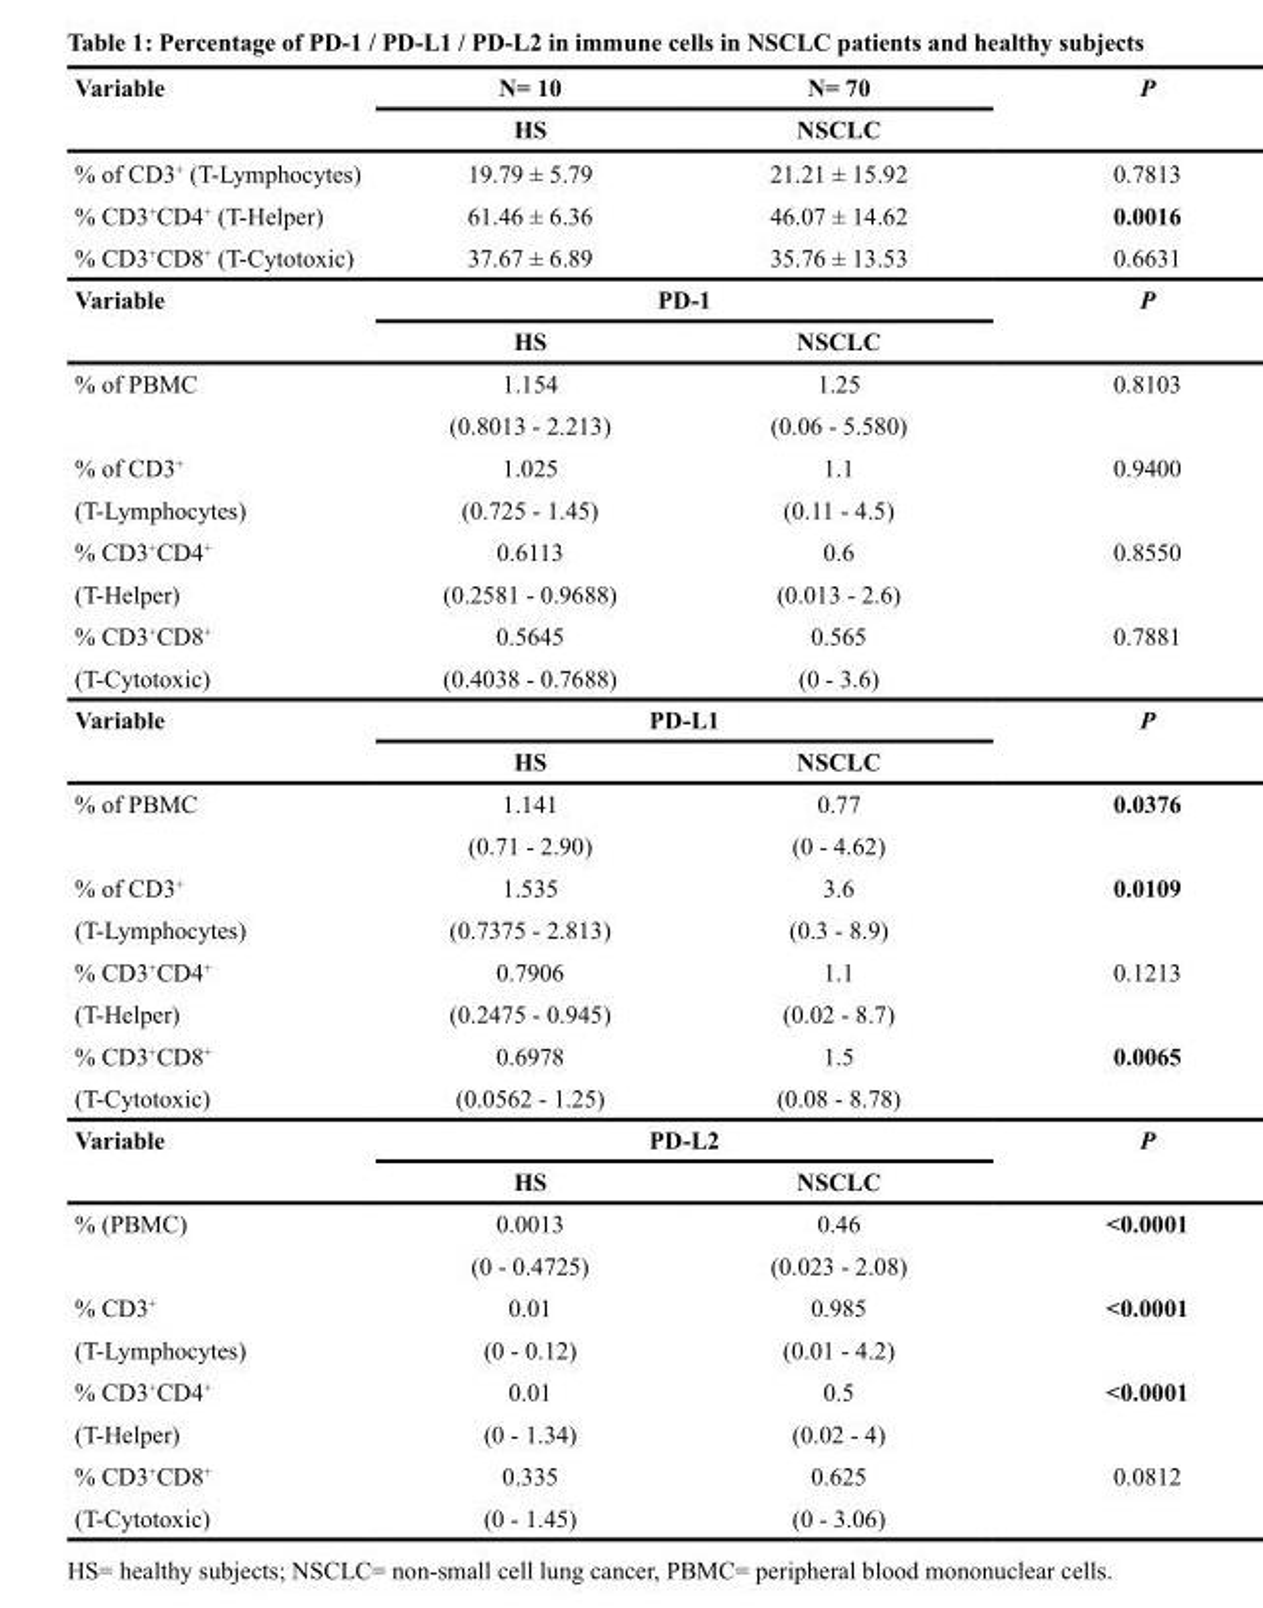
<table><tbody><tr><td rowspan="2">Variable</td><td>N= 10</td><td>N= 70</td><td rowspan="2">P</td></tr><tr><td>HS</td><td>NSCLC</td></tr><tr><td>% of CD3<sup>+</sup> (T-Lymphocytes)</td><td>19.79 ± 5.79</td><td>21.21 ± 15.92</td><td>0.7813</td></tr><tr><td>% CD3<sup>+</sup>CD4<sup>+</sup> (T-Helper)</td><td>61.46 ± 6.36</td><td>46.07 ± 14.62</td><td>0.0016</td></tr><tr><td>% CD3<sup>+</sup>CD8<sup>+</sup> (T-Cytotoxic)</td><td>37.67 ± 6.89</td><td>35.76 ± 13.53</td><td>0.6631</td></tr><tr><td rowspan="2">Variable</td><td colspan="2">PD-1</td><td rowspan="2">P</td></tr><tr><td>HS</td><td>NSCLC</td></tr><tr><td rowspan="2">% of PBMC</td><td>1.154</td><td>1.25</td><td>0.8103</td></tr><tr><td>(0.8013 - 2.213)</td><td>(0.06 - 5.580)</td><td></td></tr><tr><td>% of CD3<sup>+</sup></td><td>1.025</td><td>1.1</td><td>0.9400</td></tr><tr><td>(T-Lymphocytes)</td><td>(0.725 - 1.45)</td><td>(0.11 - 4.5)</td><td></td></tr><tr><td>% CD3<sup>+</sup>CD4<sup>+</sup></td><td>0.6113</td><td>0.6</td><td>0.8550</td></tr><tr><td>(T-Helper)</td><td>(0.2581 - 0.9688)</td><td>(0.013 - 2.6)</td><td></td></tr><tr><td>% CD3<sup>+</sup>CD8<sup>+</sup></td><td>0.5645</td><td>0.565</td><td>0.7881</td></tr><tr><td>(T-Cytotoxic)</td><td>(0.4038 - 0.7688)</td><td>(0 - 3.6)</td><td></td></tr><tr><td rowspan="2">Variable</td><td colspan="2">PD-L1</td><td rowspan="2">P</td></tr><tr><td>HS</td><td>NSCLC</td></tr><tr><td rowspan="2">% of PBMC</td><td>1.141</td><td>0.77</td><td>0.0376</td></tr><tr><td>(0.71 - 2.90)</td><td>(0 - 4.62)</td><td></td></tr><tr><td>% of CD3<sup>+</sup></td><td>1.535</td><td>3.6</td><td>0.0109</td></tr><tr><td>(T-Lymphocytes)</td><td>(0.7375 - 2.813)</td><td>(0.3 - 8.9)</td><td></td></tr><tr><td>% CD3<sup>+</sup>CD4<sup>+</sup></td><td>0.7906</td><td>1.1</td><td>0.1213</td></tr><tr><td>(T-Helper)</td><td>(0.2475 - 0.945)</td><td>(0.02 - 8.7)</td><td></td></tr><tr><td>% CD3<sup>+</sup>CD8<sup>+</sup></td><td>0.6978</td><td>1.5</td><td>0.0065</td></tr><tr><td>(T-Cytotoxic)</td><td>(0.0562 - 1.25)</td><td>(0.08 - 8.78)</td><td></td></tr><tr><td rowspan="2">Variable</td><td colspan="2">PD-L2</td><td rowspan="2">P</td></tr><tr><td>HS</td><td>NSCLC</td></tr><tr><td rowspan="2">% (PBMC)</td><td>0.0013</td><td>0.46</td><td>&lt;0.0001</td></tr><tr><td>(0 - 0.4725)</td><td>(0.023 - 2.08)</td><td></td></tr><tr><td>% CD3<sup>+</sup></td><td>0.01</td><td>0.985</td><td>&lt;0.0001</td></tr><tr><td>(T-Lymphocytes)</td><td>(0 - 0.12)</td><td>(0.01 - 4.2)</td><td></td></tr><tr><td>% CD3<sup>+</sup>CD4<sup>+</sup></td><td>0.01</td><td>0.5</td><td>&lt;0.0001</td></tr><tr><td>(T-Helper)</td><td>(0 - 1.34)</td><td>(0.02 - 4)</td><td></td></tr><tr><td>% CD3<sup>+</sup>CD8<sup>+</sup></td><td>0.335</td><td>0.625</td><td>0.0812</td></tr><tr><td>(T-Cytotoxic)</td><td>(0 - 1.45)</td><td>(0 - 3.06)</td><td></td></tr></tbody></table>